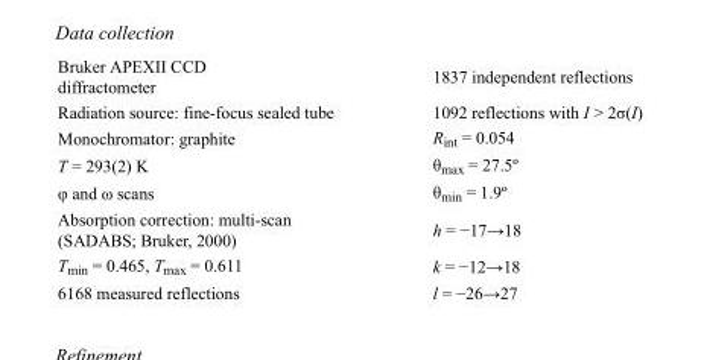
<table><tbody><tr><td>Bruker APEXII CCD diffractometer</td><td>1837 independent reflections</td></tr><tr><td>Radiation source: fine-focus sealed tube</td><td>1092 reflections with I &gt; 2σ(I)</td></tr><tr><td>Monochromator: graphite</td><td>R<sub>int</sub> = 0.054</td></tr><tr><td>T = 293(2) K</td><td>θ<sub>max</sub> = 27.5º</td></tr><tr><td>φ and ω scans</td><td>θ<sub>min</sub> = 1.9º</td></tr><tr><td>Absorption correction: multi-scan (SADABS; Bruker, 2000)</td><td>h = −17→18</td></tr><tr><td>T<sub>min</sub> = 0.465, T<sub>max</sub> = 0.611</td><td>k = −12→18</td></tr><tr><td>6168 measured reflections</td><td>l = −26→27</td></tr></tbody></table>